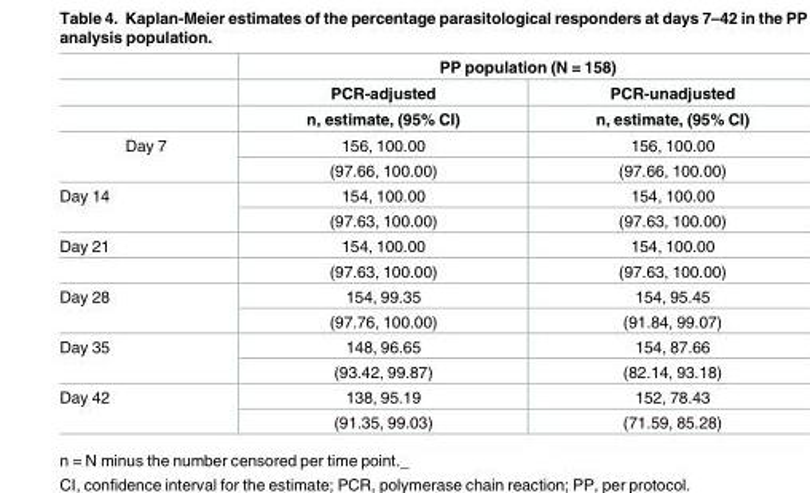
<table><thead><tr><td rowspan="3"></td><td colspan="2">PP population (N = 158)</td></tr><tr><td rowspan="2">PCR-adjusted n, estimate, (95% CI)</td><td rowspan="2">PCR-unadjusted n, estimate, (95% CI)</td></tr><tr></tr></thead><tbody><tr><td rowspan="2">Day 7</td><td>156, 100.00</td><td>156, 100.00</td></tr><tr><td>(97.66, 100.00)</td><td>(97.66, 100.00)</td></tr><tr><td rowspan="2">Day 14</td><td>154, 100.00</td><td>154, 100.00</td></tr><tr><td>(97.63, 100.00)</td><td>(97.63, 100.00)</td></tr><tr><td rowspan="2">Day 21</td><td>154, 100.00</td><td>154, 100.00</td></tr><tr><td>(97.63, 100.00)</td><td>(97.63, 100.00)</td></tr><tr><td rowspan="2">Day 28</td><td>154, 99.35</td><td>154, 95.45</td></tr><tr><td>(97.76, 100.00)</td><td>(91.84, 99.07)</td></tr><tr><td rowspan="2">Day 35</td><td>148, 96.65</td><td>154, 87.66</td></tr><tr><td>(93.42, 99.87)</td><td>(82.14, 93.18)</td></tr><tr><td rowspan="2">Day 42</td><td>138, 95.19</td><td>152, 78.43</td></tr><tr><td>(91.35, 99.03)</td><td>(71.59, 85.28)</td></tr></tbody></table>